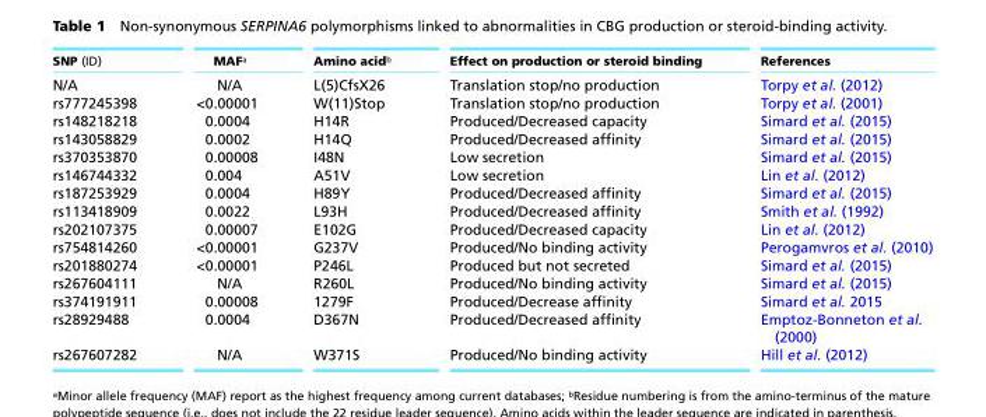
<table><thead><tr><td>SNP (ID)</td><td>MAF<sup>a</sup></td><td>Amino acid<sup>b</sup></td><td>Effect on production or steroid binding</td><td>References</td></tr></thead><tbody><tr><td>N/A</td><td>N/A</td><td>L(5)CfsX26</td><td>Translation stop/no production</td><td>Torpy et al. (2012)</td></tr><tr><td>rs777245398</td><td>&lt;0.00001</td><td>W(11)Stop</td><td>Translation stop/no production</td><td>Torpy et al. (2001)</td></tr><tr><td>rs148218218</td><td>0.0004</td><td>H14R</td><td>Produced/Decreased capacity</td><td>Simard et al. (2015)</td></tr><tr><td>rs143058829</td><td>0.0002</td><td>H14Q</td><td>Produced/Decreased affinity</td><td>Simard et al. (2015)</td></tr><tr><td>rs370353870</td><td>0.00008</td><td>I48N</td><td>Low secretion</td><td>Simard et al. (2015)</td></tr><tr><td>rs146744332</td><td>0.004</td><td>A51V</td><td>Low secretion</td><td>Lin et al. (2012)</td></tr><tr><td>rs187253929</td><td>0.0004</td><td>H89Y</td><td>Produced/Decreased affinity</td><td>Simard et al. (2015)</td></tr><tr><td>rs113418909</td><td>0.0022</td><td>L93H</td><td>Produced/Decreased affinity</td><td>Smith et al. (1992)</td></tr><tr><td>rs202107375</td><td>0.00007</td><td>E102G</td><td>Produced/Decreased capacity</td><td>Lin et al. (2012)</td></tr><tr><td>rs754814260</td><td>&lt;0.00001</td><td>G237V</td><td>Produced/No binding activity</td><td>Perogamvros et al. (2010)</td></tr><tr><td>rs201880274</td><td>&lt;0.00001</td><td>P246L</td><td>Produced but not secreted</td><td>Simard et al. (2015)</td></tr><tr><td>rs267604111</td><td>N/A</td><td>R260L</td><td>Produced/No binding activity</td><td>Simard et al. (2015)</td></tr><tr><td>rs374191911</td><td>0.00008</td><td>1279F</td><td>Produced/Decrease affinity</td><td>Simard et al. 2015</td></tr><tr><td>rs28929488</td><td>0.0004</td><td>D367N</td><td>Produced/Decreased affinity</td><td>Emptoz-Bonneton et al. (2000)</td></tr><tr><td>rs267607282</td><td>N/A</td><td>W371S</td><td>Produced/No binding activity</td><td>Hill et al. (2012)</td></tr></tbody></table>